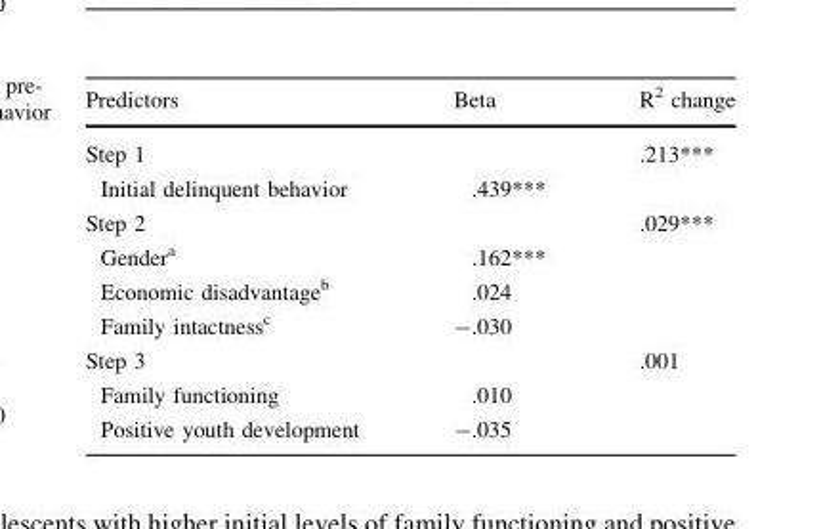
<table><thead><tr><td>Predictors</td><td>Beta</td><td>R<sup>2</sup> change</td></tr></thead><tbody><tr><td>Step 1</td><td></td><td>.213***</td></tr><tr><td>Initial delinquent behavior</td><td>.439***</td><td></td></tr><tr><td>Step 2</td><td></td><td>.029***</td></tr><tr><td>Gender<sup>a</sup></td><td>.162***</td><td></td></tr><tr><td>Economic disadvantage<sup>b</sup></td><td>.024</td><td></td></tr><tr><td>Family intactness<sup>c</sup></td><td>-.030</td><td></td></tr><tr><td>Step 3</td><td></td><td>.001</td></tr><tr><td>Family functioning</td><td>.010</td><td></td></tr><tr><td>Positive youth development</td><td>-.035</td><td></td></tr></tbody></table>